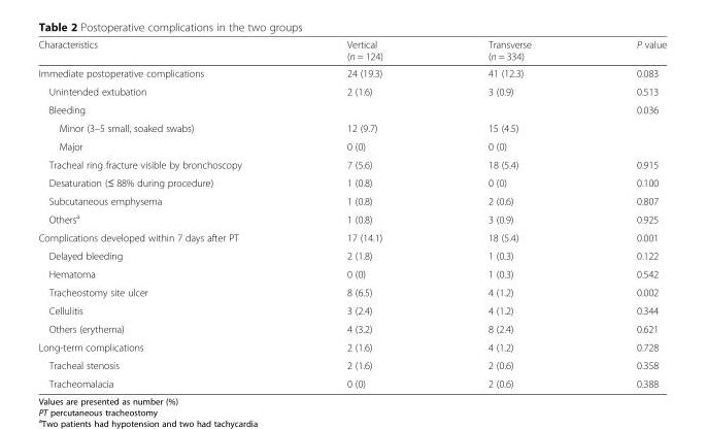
<table><thead><tr><td>Characteristics</td><td>Vertical (n = 124)</td><td>Transverse (n = 334)</td><td>P value</td></tr></thead><tbody><tr><td>Immediate postoperative complications</td><td>24 (19.3)</td><td>41 (12.3)</td><td>0.083</td></tr><tr><td>Unintended extubation</td><td>2 (1.6)</td><td>3 (0.9)</td><td>0.513</td></tr><tr><td>Bleeding</td><td></td><td></td><td>0.036</td></tr><tr><td>Minor (3–5 small, soaked swabs)</td><td>12 (9.7)</td><td>15 (4.5)</td><td></td></tr><tr><td>Major</td><td>0 (0)</td><td>0 (0)</td><td></td></tr><tr><td>Tracheal ring fracture visible by bronchoscopy</td><td>7 (5.6)</td><td>18 (5.4)</td><td>0.915</td></tr><tr><td>Desaturation (≤ 88% during procedure)</td><td>1 (0.8)</td><td>0 (0)</td><td>0.100</td></tr><tr><td>Subcutaneous emphysema</td><td>1 (0.8)</td><td>2 (0.6)</td><td>0.807</td></tr><tr><td>Others<sup>a</sup></td><td>1 (0.8)</td><td>3 (0.9)</td><td>0.925</td></tr><tr><td>Complications developed within 7 days after PT</td><td>17 (14.1)</td><td>18 (5.4)</td><td>0.001</td></tr><tr><td>Delayed bleeding</td><td>2 (1.8)</td><td>1 (0.3)</td><td>0.122</td></tr><tr><td>Hematoma</td><td>0 (0)</td><td>1 (0.3)</td><td>0.542</td></tr><tr><td>Tracheostomy site ulcer</td><td>8 (6.5)</td><td>4 (1.2)</td><td>0.002</td></tr><tr><td>Cellulitis</td><td>3 (2.4)</td><td>4 (1.2)</td><td>0.344</td></tr><tr><td>Others (erythema)</td><td>4 (3.2)</td><td>8 (2.4)</td><td>0.621</td></tr><tr><td>Long-term complications</td><td>2 (1.6)</td><td>4 (1.2)</td><td>0.728</td></tr><tr><td>Tracheal stenosis</td><td>2 (1.6)</td><td>2 (0.6)</td><td>0.358</td></tr><tr><td>Tracheomalacia</td><td>0 (0)</td><td>2 (0.6)</td><td>0.388</td></tr></tbody></table>